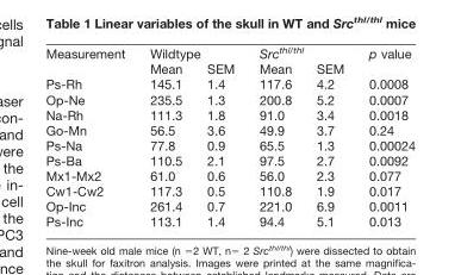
<table><thead><tr><td rowspan="2">Measurement</td><td colspan="2">Wildtype</td><td colspan="2">Src<sup>thl/thl</sup></td><td rowspan="2">p value</td></tr><tr><td>Mean</td><td>SEM</td><td>Mean</td><td>SEM</td></tr></thead><tbody><tr><td>Ps-Rh</td><td>145.1</td><td>1.4</td><td>117.6</td><td>4.2</td><td>0.0008</td></tr><tr><td>Op-Ne</td><td>235.5</td><td>1.3</td><td>200.8</td><td>5.2</td><td>0.0007</td></tr><tr><td>Na-Rh</td><td>111.3</td><td>1.8</td><td>91.0</td><td>3.4</td><td>0.0018</td></tr><tr><td>Go-Mn</td><td>56.5</td><td>3.6</td><td>49.9</td><td>3.7</td><td>0.24</td></tr><tr><td>Ps-Na</td><td>77.8</td><td>0.9</td><td>65.5</td><td>1.3</td><td>0.00024</td></tr><tr><td>Ps-Ba</td><td>110.5</td><td>2.1</td><td>97.5</td><td>2.7</td><td>0.0092</td></tr><tr><td>Mx1-Mx2</td><td>61.0</td><td>0.6</td><td>56.0</td><td>2.3</td><td>0.077</td></tr><tr><td>Cw1-Cw2</td><td>117.3</td><td>0.5</td><td>110.8</td><td>1.9</td><td>0.017</td></tr><tr><td>Op-Inc</td><td>261.4</td><td>0.7</td><td>221.0</td><td>6.9</td><td>0.0011</td></tr><tr><td>Ps-Inc</td><td>113.1</td><td>1.4</td><td>94.4</td><td>5.1</td><td>0.013</td></tr></tbody></table>